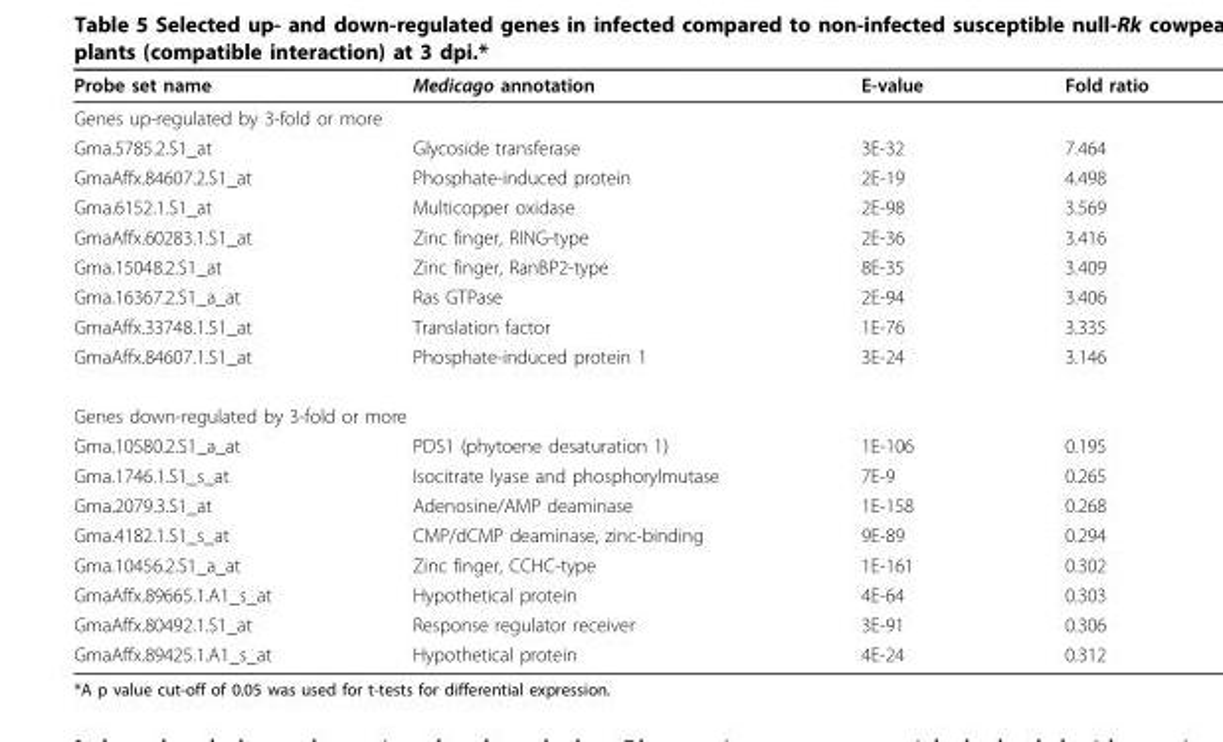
<table><thead><tr><td>Probe set name</td><td>Medicago annotation</td><td>E-value</td><td>Fold ratio</td></tr></thead><tbody><tr><td colspan="4">Genes up-regulated by 3-fold or more</td></tr><tr><td>Gma.5785.2.S1_at</td><td>Glycoside transferase</td><td>3E-32</td><td>7.464</td></tr><tr><td>GmaAffx.84607.2.S1_at</td><td>Phosphate-induced protein</td><td>2E-19</td><td>4.498</td></tr><tr><td>Gma.6152.1.S1_at</td><td>Multicopper oxidase</td><td>2E-98</td><td>3.569</td></tr><tr><td>GmaAffx.60283.1.S1_at</td><td>Zinc finger, RING-type</td><td>2E-36</td><td>3.416</td></tr><tr><td>Gma.15048.2.S1_at</td><td>Zinc finger, RanBP2-type</td><td>8E-35</td><td>3.409</td></tr><tr><td>Gma.16367.2.S1_a_at</td><td>Ras GTPase</td><td>2E-94</td><td>3.406</td></tr><tr><td>GmaAffx.33748.1.S1_at</td><td>Translation factor</td><td>1E-76</td><td>3.335</td></tr><tr><td>GmaAffx.84607.1.S1_at</td><td>Phosphate-induced protein 1</td><td>3E-24</td><td>3.146</td></tr><tr><td colspan="4">Genes down-regulated by 3-fold or more</td></tr><tr><td>Gma.10580.2.S1_a_at</td><td>PDS1 (phytoene desaturation 1)</td><td>1E-106</td><td>0.195</td></tr><tr><td>Gma.1746.1.S1_s_at</td><td>Isocitrate lyase and phosphorylmutase</td><td>7E-9</td><td>0.265</td></tr><tr><td>Gma.2079.3.S1_at</td><td>Adenosine/AMP deaminase</td><td>1E-158</td><td>0.268</td></tr><tr><td>Gma.4182.1.S1_s_at</td><td>CMP/dCMP deaminase, zinc-binding</td><td>9E-89</td><td>0.294</td></tr><tr><td>Gma.10456.2.S1_a_at</td><td>Zinc finger, CCHC-type</td><td>1E-161</td><td>0.302</td></tr><tr><td>GmaAffx.89665.1.A1_s_at</td><td>Hypothetical protein</td><td>4E-64</td><td>0.303</td></tr><tr><td>GmaAffx.80492.1.S1_at</td><td>Response regulator receiver</td><td>3E-91</td><td>0.306</td></tr><tr><td>GmaAffx.89425.1.A1_s_at</td><td>Hypothetical protein</td><td>4E-24</td><td>0.312</td></tr></tbody></table>